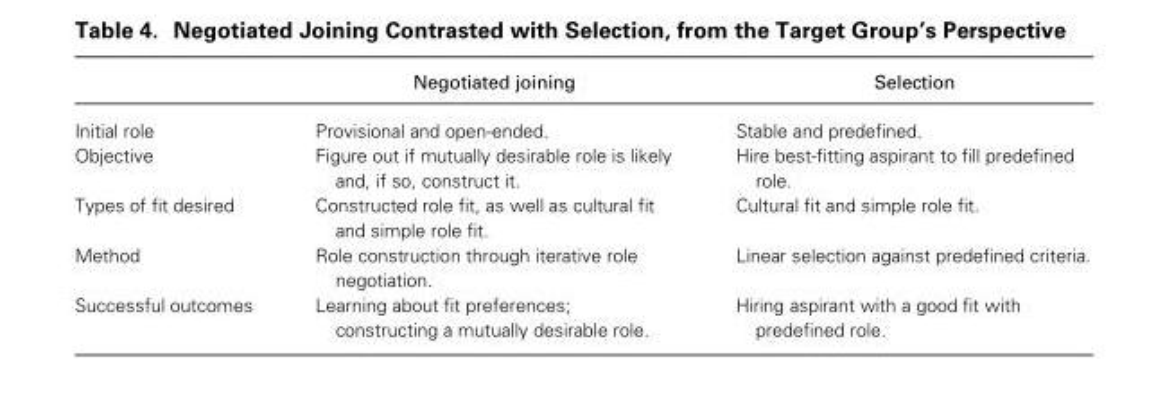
<table><thead><tr><td></td><td>Negotiated joining</td><td>Selection</td></tr></thead><tbody><tr><td>Initial role</td><td>Provisional and open-ended.</td><td>Stable and predefined.</td></tr><tr><td>Objective</td><td>Figure out if mutually desirable role is likely and, if so, construct it.</td><td>Hire best-fitting aspirant to fill predefined role.</td></tr><tr><td>Types of fit desired</td><td>Constructed role fit, as well as cultural fit and simple role fit.</td><td>Cultural fit and simple role fit.</td></tr><tr><td>Method</td><td>Role construction through iterative role negotiation.</td><td>Linear selection against predefined criteria.</td></tr><tr><td>Successful outcomes</td><td>Learning about fit preferences; constructing a mutually desirable role.</td><td>Hiring aspirant with a good fit with predefined role.</td></tr></tbody></table>